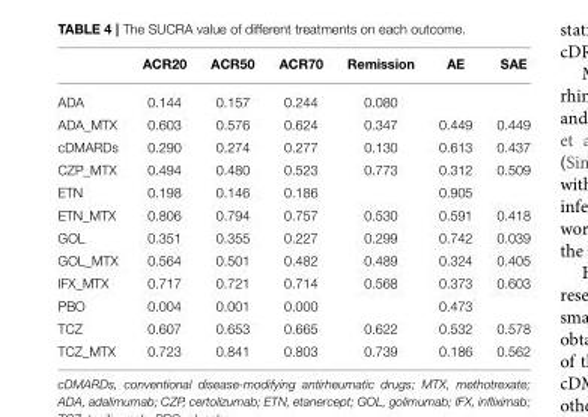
<table><thead><tr><td></td><td>ACR20</td><td>ACR50</td><td>ACR70</td><td>Remission</td><td>AE</td><td>SAE</td></tr></thead><tbody><tr><td>ADA</td><td>0.144</td><td>0.157</td><td>0.244</td><td>0.080</td><td></td><td></td></tr><tr><td>ADA_MTX</td><td>0.603</td><td>0.576</td><td>0.624</td><td>0.347</td><td>0.449</td><td>0.449</td></tr><tr><td>cDMARDs</td><td>0.290</td><td>0.274</td><td>0.277</td><td>0.130</td><td>0.613</td><td>0.437</td></tr><tr><td>CZP_MTX</td><td>0.494</td><td>0.480</td><td>0.523</td><td>0.773</td><td>0.312</td><td>0.509</td></tr><tr><td>ETN</td><td>0.198</td><td>0.146</td><td>0.186</td><td></td><td>0.905</td><td></td></tr><tr><td>ETN_MTX</td><td>0.806</td><td>0.794</td><td>0.757</td><td>0.530</td><td>0.591</td><td>0.418</td></tr><tr><td>GOL</td><td>0.351</td><td>0.355</td><td>0.227</td><td>0.299</td><td>0.742</td><td>0.039</td></tr><tr><td>GOL_MTX</td><td>0.564</td><td>0.501</td><td>0.482</td><td>0.489</td><td>0.324</td><td>0.405</td></tr><tr><td>IFX_MTX</td><td>0.717</td><td>0.721</td><td>0.714</td><td>0.568</td><td>0.373</td><td>0.603</td></tr><tr><td>PBO</td><td>0.004</td><td>0.001</td><td>0.000</td><td></td><td>0.473</td><td></td></tr><tr><td>TCZ</td><td>0.607</td><td>0.653</td><td>0.665</td><td>0.622</td><td>0.532</td><td>0.578</td></tr><tr><td>TCZ_MTX</td><td>0.723</td><td>0.841</td><td>0.803</td><td>0.739</td><td>0.186</td><td>0.562</td></tr></tbody></table>